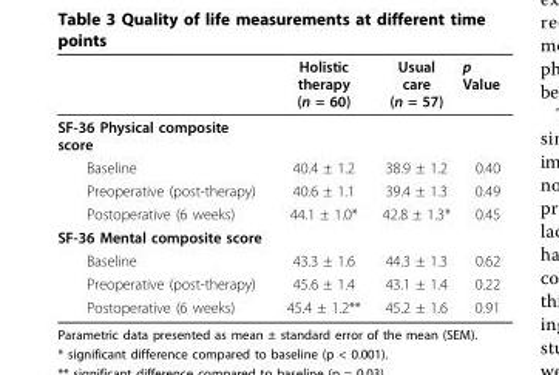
<table><thead><tr><td></td><td>Holistic therapy (n = 60)</td><td>Usual care (n = 57)</td><td>p Value</td></tr></thead><tbody><tr><td colspan="4">SF-36 Physical composite score</td></tr><tr><td>Baseline</td><td>40.4 ± 1.2</td><td>38.9 ± 1.2</td><td>0.40</td></tr><tr><td>Preoperative (post-therapy)</td><td>40.6 ± 1.1</td><td>39.4 ± 1.3</td><td>0.49</td></tr><tr><td>Postoperative (6 weeks)</td><td>44.1 ± 1.0*</td><td>42.8 ± 1.3*</td><td>0.45</td></tr><tr><td colspan="4">SF-36 Mental composite score</td></tr><tr><td>Baseline</td><td>43.3 ± 1.6</td><td>44.3 ± 1.3</td><td>0.62</td></tr><tr><td>Preoperative (post-therapy)</td><td>45.6 ± 1.4</td><td>43.1 ± 1.4</td><td>0.22</td></tr><tr><td>Postoperative (6 weeks)</td><td>45.4 ± 1.2**</td><td>45.2 ± 1.6</td><td>0.91</td></tr></tbody></table>